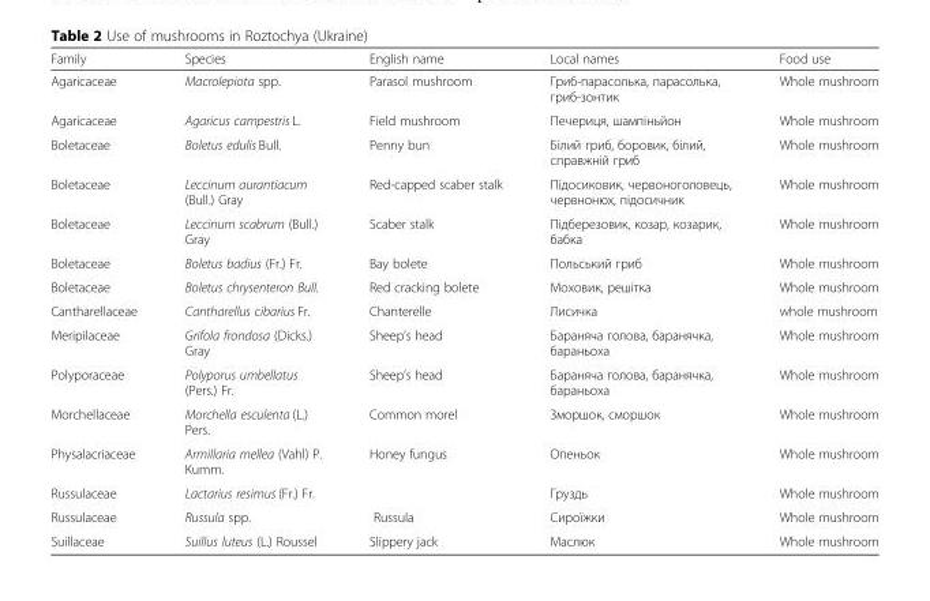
<table><thead><tr><td>Family</td><td>Species</td><td>English name</td><td>Local names</td><td>Food use</td></tr></thead><tbody><tr><td>Agaricaceae</td><td>Macrolepiota spp.</td><td>Parasol mushroom</td><td>Гриб-парасолька, парасолька, гриб-зонтик</td><td>Whole mushroom</td></tr><tr><td>Agaricaceae</td><td>Agaricus campestris L.</td><td>Field mushroom</td><td>Печериця, шампіньйон</td><td>Whole mushroom</td></tr><tr><td>Boletaceae</td><td>Boletus edulis Bull.</td><td>Penny bun</td><td>Білий гриб, боровик, білий, справжній гриб</td><td>Whole mushroom</td></tr><tr><td>Boletaceae</td><td>Leccinum aurantiacum (Bull.) Gray</td><td>Red-capped scaber stalk</td><td>Підосиковик, червоноголовець, червнонюх, підосичник</td><td>Whole mushroom</td></tr><tr><td>Boletaceae</td><td>Leccinum scabrum (Bull.) Gray</td><td>Scaber stalk</td><td>Підберезовик, козар, козарик, бабка</td><td>Whole mushroom</td></tr><tr><td>Boletaceae</td><td>Boletus badius (Fr.) Fr.</td><td>Bay bolete</td><td>Польський гриб</td><td>Whole mushroom</td></tr><tr><td>Boletaceae</td><td>Boletus chrysenteron Bull.</td><td>Red cracking bolete</td><td>Моховик, решітка</td><td>Whole mushroom</td></tr><tr><td>Cantharellaceae</td><td>Cantharellus cibarius Fr.</td><td>Chanterelle</td><td>Лисичка</td><td>whole mushroom</td></tr><tr><td>Meripilaceae</td><td>Grifola frondosa (Dicks.) Gray</td><td>Sheep’s head</td><td>Бараняча голова, баранячка, бараньоха</td><td>Whole mushroom</td></tr><tr><td>Polyporaceae</td><td>Polyporus umbellatus (Pers.) Fr.</td><td>Sheep’s head</td><td>Бараняча голова, баранячка, бараньоха</td><td>Whole mushroom</td></tr><tr><td>Morchellaceae</td><td>Morchella esculenta (L.) Pers.</td><td>Common morel</td><td>Зморшок, сморшок</td><td>Whole mushroom</td></tr><tr><td>Physalacriaceae</td><td>Armillaria mellea (Vahl) P. Kumm.</td><td>Honey fungus</td><td>Опеньок</td><td>Whole mushroom</td></tr><tr><td>Russulaceae</td><td>Lactarius resimus (Fr.) Fr.</td><td></td><td>Груздь</td><td>Whole mushroom</td></tr><tr><td>Russulaceae</td><td>Russula spp.</td><td>Russula</td><td>Сироїжки</td><td>Whole mushroom</td></tr><tr><td>Suillaceae</td><td>Suillus luteus (L.) Roussel</td><td>Slippery jack</td><td>Маслюк</td><td>Whole mushroom</td></tr></tbody></table>